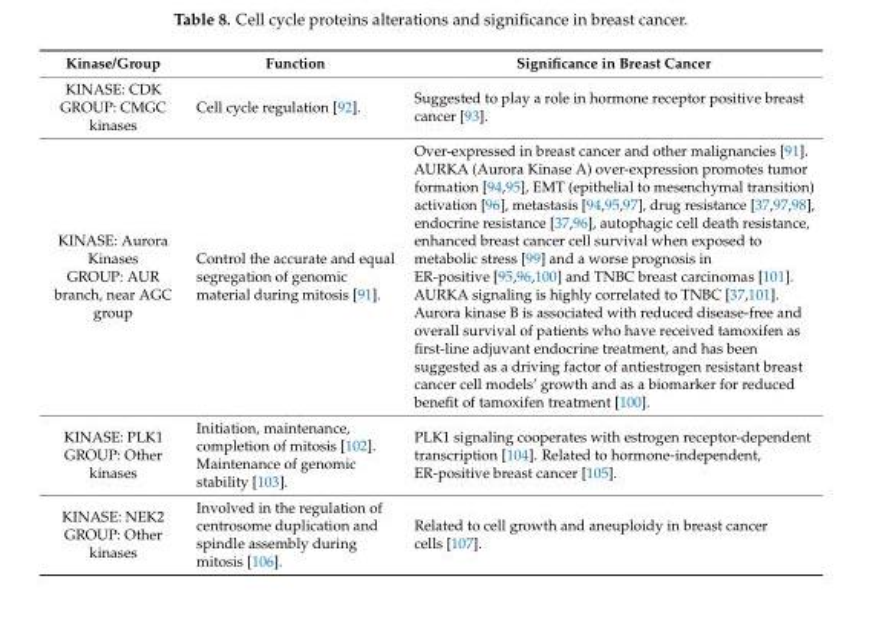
<table><thead><tr><td>Kinase/Group</td><td>Function</td><td>Significance in Breast Cancer</td></tr></thead><tbody><tr><td>KINASE: CDK GROUP: CMGC kinases</td><td>Cell cycle regulation [92].</td><td>Suggested to play a role in hormone receptor positive breast cancer [93].</td></tr><tr><td>KINASE: Aurora Kinases GROUP: AUR branch, near AGC group</td><td>Control the accurate and equal segregation of genomic material during mitosis [91].</td><td>Over-expressed in breast cancer and other malignancies [91]. AURKA (Aurora Kinase A) over-expression promotes tumor formation [94,95], EMT (epithelial to mesenchymal transition) activation [96], metastasis [94,95,97], drug resistance [37,97,98], endocrine resistance [37,96], autophagic cell death resistance, enhanced breast cancer cell survival when exposed to metabolic stress [99] and a worse prognosis in ER-positive [95,96,100] and TNBC breast carcinomas [101]. AURKA signaling is highly correlated to TNBC [37,101]. Aurora kinase B is associated with reduced disease-free and overall survival of patients who have received tamoxifen as first-line adjuvant endocrine treatment, and has been suggested as a driving factor of antiestrogen resistant breast cancer cell models’ growth and as a biomarker for reduced benefit of tamoxifen treatment [100].</td></tr><tr><td>KINASE: PLK1 GROUP: Other kinases</td><td>Initiation, maintenance, completion of mitosis [102]. Maintenance of genomic stability [103].</td><td>PLK1 signaling cooperates with estrogen receptor-dependent transcription [104]. Related to hormone-independent, ER-positive breast cancer [105].</td></tr><tr><td>KINASE: NEK2 GROUP: Other kinases</td><td>Involved in the regulation of centrosome duplication and spindle assembly during mitosis [106].</td><td>Related to cell growth and aneuploidy in breast cancer cells [107].</td></tr></tbody></table>